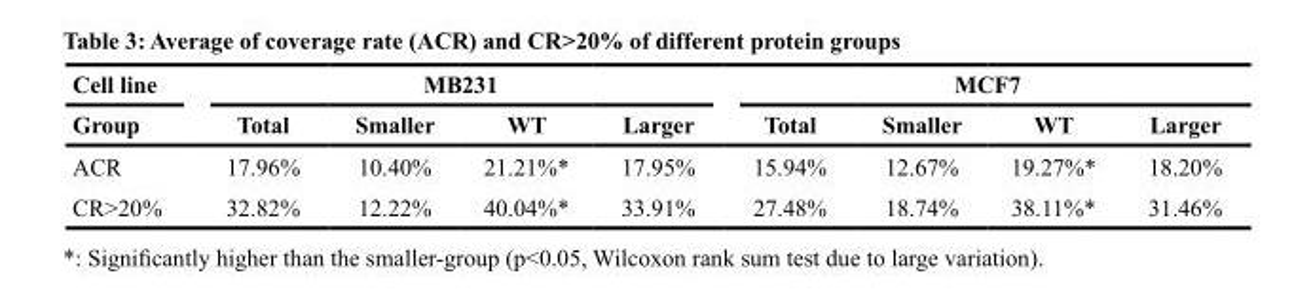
<table><thead><tr><td rowspan="2">Cell line Group</td><td colspan="4">MB231</td><td colspan="4">MCF7</td></tr><tr><td>Total</td><td>Smaller</td><td>WT</td><td>Larger</td><td>Total</td><td>Smaller</td><td>WT</td><td>Larger</td></tr></thead><tbody><tr><td>ACR</td><td>17.96%</td><td>10.40%</td><td>21.21%*</td><td>17.95%</td><td>15.94%</td><td>12.67%</td><td>19.27%*</td><td>18.20%</td></tr><tr><td>CR&gt;20%</td><td>32.82%</td><td>12.22%</td><td>40.04%*</td><td>33.91%</td><td>27.48%</td><td>18.74%</td><td>38.11%*</td><td>31.46%</td></tr></tbody></table>